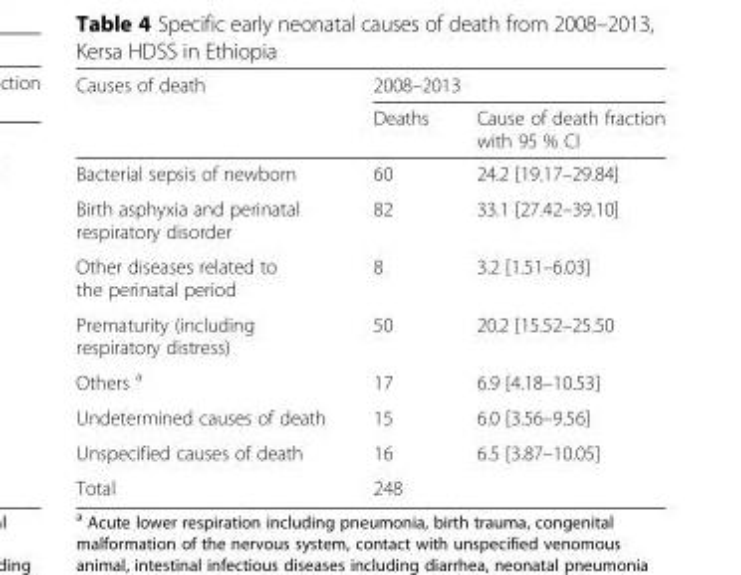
<table><thead><tr><td rowspan="2">Causes of death</td><td colspan="2">2008–2013</td></tr><tr><td>Deaths</td><td>Cause of death fraction with 95 % CI</td></tr></thead><tbody><tr><td>Bacterial sepsis of newborn</td><td>60</td><td>24.2 [19.17–29.84]</td></tr><tr><td>Birth asphyxia and perinatal respiratory disorder</td><td>82</td><td>33.1 [27.42–39.10]</td></tr><tr><td>Other diseases related to the perinatal period</td><td>8</td><td>3.2 [1.51–6.03]</td></tr><tr><td>Prematurity (including respiratory distress)</td><td>50</td><td>20.2 [15.52–25.50</td></tr><tr><td>Others <sup>a</sup></td><td>17</td><td>6.9 [4.18–10.53]</td></tr><tr><td>Undetermined causes of death</td><td>15</td><td>6.0 [3.56–9.56]</td></tr><tr><td>Unspecified causes of death</td><td>16</td><td>6.5 [3.87–10.05]</td></tr><tr><td>Total</td><td>248</td><td></td></tr></tbody></table>